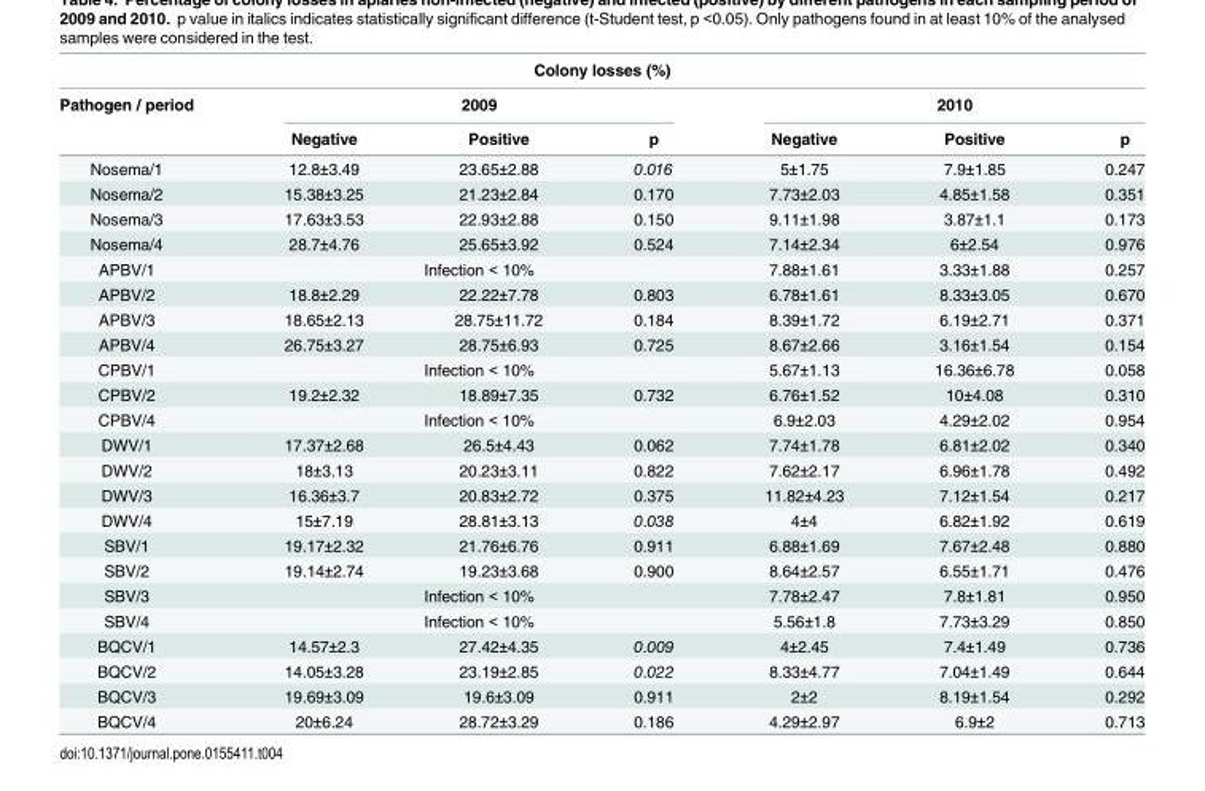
<table><thead><tr><td colspan="7">Colony losses (%)</td></tr><tr><td rowspan="2">Pathogen / period</td><td colspan="3">2009</td><td colspan="3">2010</td></tr><tr><td>Negative</td><td>Positive</td><td>p</td><td>Negative</td><td>Positive</td><td>p</td></tr></thead><tbody><tr><td>Nosema/1</td><td>12.8±3.49</td><td>23.65±2.88</td><td>0.016</td><td>5±1.75</td><td>7.9±1.85</td><td>0.247</td></tr><tr><td>Nosema/2</td><td>15.38±3.25</td><td>21.23±2.84</td><td>0.170</td><td>7.73±2.03</td><td>4.85±1.58</td><td>0.351</td></tr><tr><td>Nosema/3</td><td>17.63±3.53</td><td>22.93±2.88</td><td>0.150</td><td>9.11±1.98</td><td>3.87±1.1</td><td>0.173</td></tr><tr><td>Nosema/4</td><td>28.7±4.76</td><td>25.65±3.92</td><td>0.524</td><td>7.14±2.34</td><td>6±2.54</td><td>0.976</td></tr><tr><td>APBV/1</td><td colspan="3">Infection &lt; 10%</td><td>7.88±1.61</td><td>3.33±1.88</td><td>0.257</td></tr><tr><td>APBV/2</td><td>18.8±2.29</td><td>22.22±7.78</td><td>0.803</td><td>6.78±1.61</td><td>8.33±3.05</td><td>0.670</td></tr><tr><td>APBV/3</td><td>18.65±2.13</td><td>28.75±11.72</td><td>0.184</td><td>8.39±1.72</td><td>6.19±2.71</td><td>0.371</td></tr><tr><td>APBV/4</td><td>26.75±3.27</td><td>28.75±6.93</td><td>0.725</td><td>8.67±2.66</td><td>3.16±1.54</td><td>0.154</td></tr><tr><td>CPBV/1</td><td colspan="3">Infection &lt; 10%</td><td>5.67±1.13</td><td>16.36±6.78</td><td>0.058</td></tr><tr><td>CPBV/2</td><td>19.2±2.32</td><td>18.89±7.35</td><td>0.732</td><td>6.76±1.52</td><td>10±4.08</td><td>0.310</td></tr><tr><td>CPBV/4</td><td colspan="3">Infection &lt; 10%</td><td>6.9±2.03</td><td>4.29±2.02</td><td>0.954</td></tr><tr><td>DWV/1</td><td>17.37±2.68</td><td>26.5±4.43</td><td>0.062</td><td>7.74±1.78</td><td>6.81±2.02</td><td>0.340</td></tr><tr><td>DWV/2</td><td>18±3.13</td><td>20.23±3.11</td><td>0.822</td><td>7.62±2.17</td><td>6.96±1.78</td><td>0.492</td></tr><tr><td>DWV/3</td><td>16.36±3.7</td><td>20.83±2.72</td><td>0.375</td><td>11.82±4.23</td><td>7.12±1.54</td><td>0.217</td></tr><tr><td>DWV/4</td><td>15±7.19</td><td>28.81±3.13</td><td>0.038</td><td>4±4</td><td>6.82±1.92</td><td>0.619</td></tr><tr><td>SBV/1</td><td>19.17±2.32</td><td>21.76±6.76</td><td>0.911</td><td>6.88±1.69</td><td>7.67±2.48</td><td>0.880</td></tr><tr><td>SBV/2</td><td>19.14±2.74</td><td>19.23±3.68</td><td>0.900</td><td>8.64±2.57</td><td>6.55±1.71</td><td>0.476</td></tr><tr><td>SBV/3</td><td colspan="3">Infection &lt; 10%</td><td>7.78±2.47</td><td>7.8±1.81</td><td>0.950</td></tr><tr><td>SBV/4</td><td colspan="3">Infection &lt; 10%</td><td>5.56±1.8</td><td>7.73±3.29</td><td>0.850</td></tr><tr><td>BQCV/1</td><td>14.57±2.3</td><td>27.42±4.35</td><td>0.009</td><td>4±2.45</td><td>7.4±1.49</td><td>0.736</td></tr><tr><td>BQCV/2</td><td>14.05±3.28</td><td>23.19±2.85</td><td>0.022</td><td>8.33±4.77</td><td>7.04±1.49</td><td>0.644</td></tr><tr><td>BQCV/3</td><td>19.69±3.09</td><td>19.6±3.09</td><td>0.911</td><td>2±2</td><td>8.19±1.54</td><td>0.292</td></tr><tr><td>BQCV/4</td><td>20±6.24</td><td>28.72±3.29</td><td>0.186</td><td>4.29±2.97</td><td>6.9±2</td><td>0.713</td></tr></tbody></table>